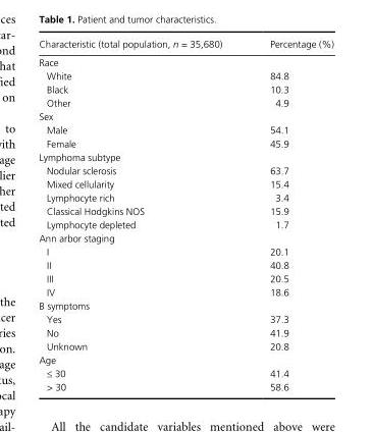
<table><thead><tr><td>Characteristic (total population, n = 35,680)</td><td>Percentage (%)</td></tr></thead><tbody><tr><td colspan="2">Race</td></tr><tr><td>White</td><td>84.8</td></tr><tr><td>Black</td><td>10.3</td></tr><tr><td>Other</td><td>4.9</td></tr><tr><td colspan="2">Sex</td></tr><tr><td>Male</td><td>54.1</td></tr><tr><td>Female</td><td>45.9</td></tr><tr><td colspan="2">Lymphoma subtype</td></tr><tr><td>Nodular sclerosis</td><td>63.7</td></tr><tr><td>Mixed cellularity</td><td>15.4</td></tr><tr><td>Lymphocyte rich</td><td>3.4</td></tr><tr><td>Classical Hodgkins NOS</td><td>15.9</td></tr><tr><td>Lymphocyte depleted</td><td>1.7</td></tr><tr><td colspan="2">Ann arbor staging</td></tr><tr><td>I</td><td>20.1</td></tr><tr><td>II</td><td>40.8</td></tr><tr><td>III</td><td>20.5</td></tr><tr><td>IV</td><td>18.6</td></tr><tr><td colspan="2">B symptoms</td></tr><tr><td>Yes</td><td>37.3</td></tr><tr><td>No</td><td>41.9</td></tr><tr><td>Unknown</td><td>20.8</td></tr><tr><td colspan="2">Age</td></tr><tr><td>≤ 30</td><td>41.4</td></tr><tr><td>&gt; 30</td><td>58.6</td></tr></tbody></table>